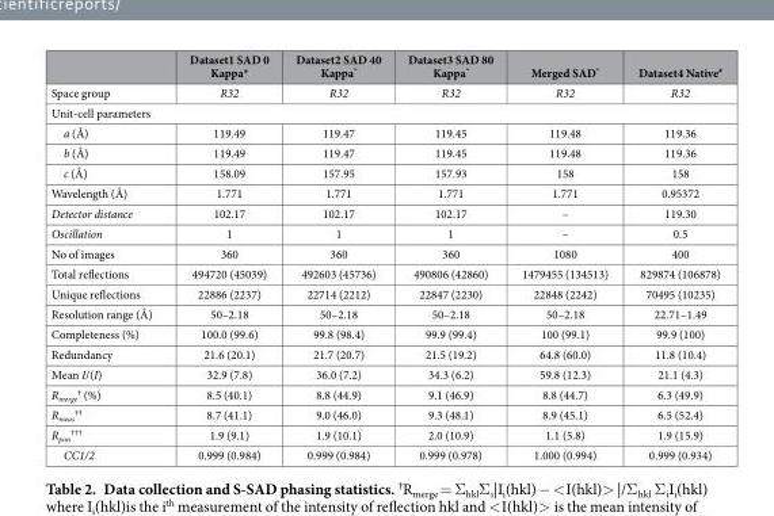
<table><thead><tr><td></td><td>Dataset1 SAD 0 Kappa*</td><td>Dataset2 SAD 40 Kappa*</td><td>Dataset3 SAD 80 Kappa*</td><td>Merged SAD*</td><td>Dataset4 Native#</td></tr></thead><tbody><tr><td>Space group</td><td>R32</td><td>R32</td><td>R32</td><td>R32</td><td>R32</td></tr><tr><td colspan="6">Unit-cell parameters</td></tr><tr><td>a (Å)</td><td>119.49</td><td>119.47</td><td>119.45</td><td>119.48</td><td>119.36</td></tr><tr><td>b (Å)</td><td>119.49</td><td>119.47</td><td>119.45</td><td>119.48</td><td>119.36</td></tr><tr><td>c (Å)</td><td>158.09</td><td>157.95</td><td>157.93</td><td>158</td><td>158</td></tr><tr><td>Wavelength (Å)</td><td>1.771</td><td>1.771</td><td>1.771</td><td>1.771</td><td>0.95372</td></tr><tr><td>Detector distance</td><td>102.17</td><td>102.17</td><td>102.17</td><td>–</td><td>119.30</td></tr><tr><td>Oscillation</td><td>1</td><td>1</td><td>1</td><td>–</td><td>0.5</td></tr><tr><td>No of images</td><td>360</td><td>360</td><td>360</td><td>1080</td><td>400</td></tr><tr><td>Total reflections</td><td>494720 (45039)</td><td>492603 (45736)</td><td>490806 (42860)</td><td>1479455 (134513)</td><td>829874 (106878)</td></tr><tr><td>Unique reflections</td><td>22886 (2237)</td><td>22714 (2212)</td><td>22847 (2230)</td><td>22848 (2242)</td><td>70495 (10235)</td></tr><tr><td>Resolution range (Å)</td><td>50–2.18</td><td>50–2.18</td><td>50–2.18</td><td>50–2.18</td><td>22.71–1.49</td></tr><tr><td>Completeness (%)</td><td>100.0 (99.6)</td><td>99.8 (98.4)</td><td>99.9 (99.4)</td><td>100 (99.1)</td><td>99.9 (100)</td></tr><tr><td>Redundancy</td><td>21.6 (20.1)</td><td>21.7 (20.7)</td><td>21.5 (19.2)</td><td>64.8 (60.0)</td><td>11.8 (10.4)</td></tr><tr><td>Mean I/(I)</td><td>32.9 (7.8)</td><td>36.0 (7.2)</td><td>34.3 (6.2)</td><td>59.8 (12.3)</td><td>21.1 (4.3)</td></tr><tr><td>R<sub>merge</sub> † (%)</td><td>8.5 (40.1)</td><td>8.8 (44.9)</td><td>9.1 (46.9)</td><td>8.8 (44.7)</td><td>6.3 (49.9)</td></tr><tr><td>R<sub>meas</sub> ††</td><td>8.7 (41.1)</td><td>9.0 (46.0)</td><td>9.3 (48.1)</td><td>8.9 (45.1)</td><td>6.5 (52.4)</td></tr><tr><td>R<sub>pim</sub> †††</td><td>1.9 (9.1)</td><td>1.9 (10.1)</td><td>2.0 (10.9)</td><td>1.1 (5.8)</td><td>1.9 (15.9)</td></tr><tr><td>CC1/2</td><td>0.999 (0.984)</td><td>0.999 (0.984)</td><td>0.999 (0.978)</td><td>1.000 (0.994)</td><td>0.999 (0.934)</td></tr></tbody></table>